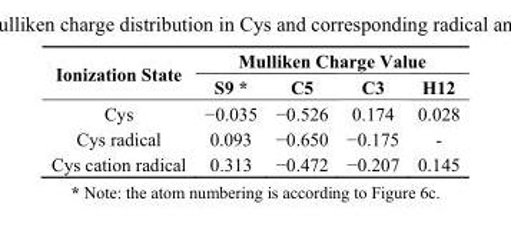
<table><thead><tr><td rowspan="2">Ionization State</td><td colspan="4">Mulliken Charge Value</td></tr><tr><td>S9 *</td><td>C5</td><td>C3</td><td>H12</td></tr></thead><tbody><tr><td>Сys</td><td>−0.035</td><td>−0.526</td><td>0.174</td><td>0.028</td></tr><tr><td>Cys radical</td><td>0.093</td><td>−0.650</td><td>−0.175</td><td>-</td></tr><tr><td>Cys cation radical</td><td>0.313</td><td>−0.472</td><td>−0.207</td><td>0.145</td></tr></tbody></table>